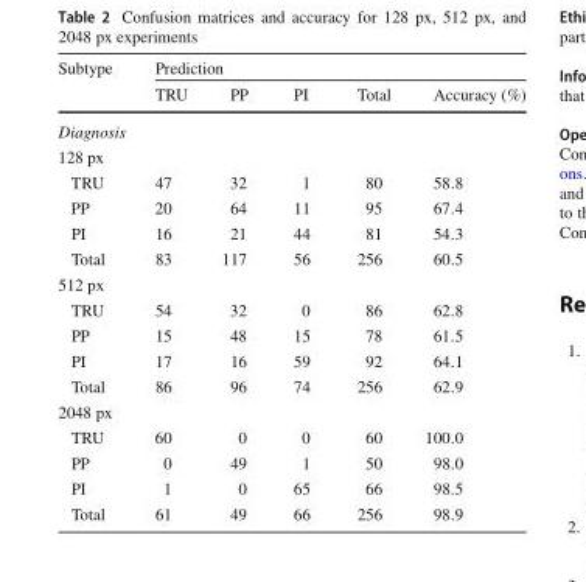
<table><thead><tr><td rowspan="2">Subtype</td><td colspan="5">Prediction</td></tr><tr><td>TRU</td><td>PP</td><td>PI</td><td>Total</td><td>Accuracy (%)</td></tr></thead><tbody><tr><td colspan="6">Diagnosis</td></tr><tr><td colspan="6">128 px</td></tr><tr><td>TRU</td><td>47</td><td>32</td><td>1</td><td>80</td><td>58.8</td></tr><tr><td>PP</td><td>20</td><td>64</td><td>11</td><td>95</td><td>67.4</td></tr><tr><td>PI</td><td>16</td><td>21</td><td>44</td><td>81</td><td>54.3</td></tr><tr><td>Total</td><td>83</td><td>117</td><td>56</td><td>256</td><td>60.5</td></tr><tr><td colspan="6">512 px</td></tr><tr><td>TRU</td><td>54</td><td>32</td><td>0</td><td>86</td><td>62.8</td></tr><tr><td>PP</td><td>15</td><td>48</td><td>15</td><td>78</td><td>61.5</td></tr><tr><td>PI</td><td>17</td><td>16</td><td>59</td><td>92</td><td>64.1</td></tr><tr><td>Total</td><td>86</td><td>96</td><td>74</td><td>256</td><td>62.9</td></tr><tr><td colspan="6">2048 px</td></tr><tr><td>TRU</td><td>60</td><td>0</td><td>0</td><td>60</td><td>100.0</td></tr><tr><td>PP</td><td>0</td><td>49</td><td>1</td><td>50</td><td>98.0</td></tr><tr><td>PI</td><td>1</td><td>0</td><td>65</td><td>66</td><td>98.5</td></tr><tr><td>Total</td><td>61</td><td>49</td><td>66</td><td>256</td><td>98.9</td></tr></tbody></table>